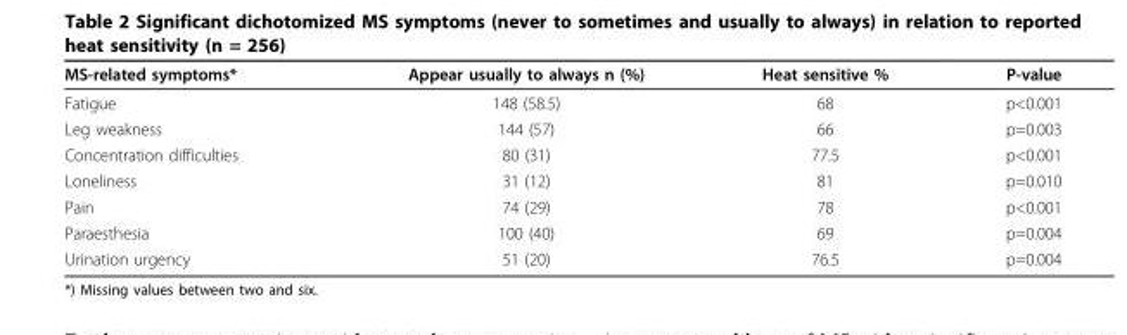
<table><thead><tr><td>MS-related symptoms*</td><td>Appear usually to always n (%)</td><td>Heat sensitive %</td><td>P-value</td></tr></thead><tbody><tr><td>Fatigue</td><td>148 (58.5)</td><td>68</td><td>p&lt;0.001</td></tr><tr><td>Leg weakness</td><td>144 (57)</td><td>66</td><td>p=0.003</td></tr><tr><td>Concentration difficulties</td><td>80 (31)</td><td>77.5</td><td>p&lt;0.001</td></tr><tr><td>Loneliness</td><td>31 (12)</td><td>81</td><td>p=0.010</td></tr><tr><td>Pain</td><td>74 (29)</td><td>78</td><td>p&lt;0.001</td></tr><tr><td>Paraesthesia</td><td>100 (40)</td><td>69</td><td>p=0.004</td></tr><tr><td>Urination urgency</td><td>51 (20)</td><td>76.5</td><td>p=0.004</td></tr></tbody></table>